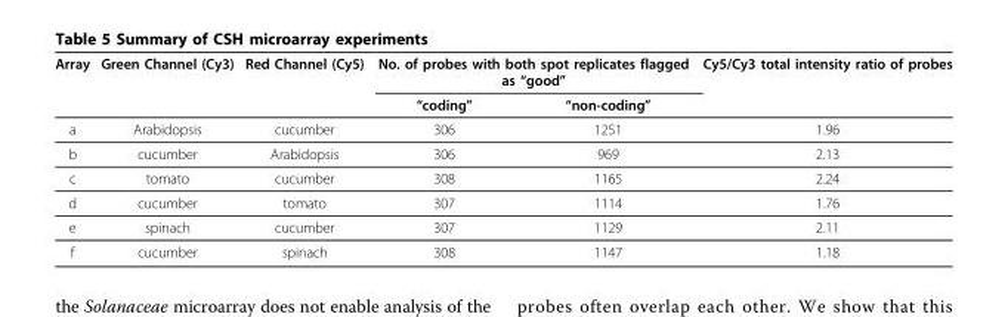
<table><thead><tr><td rowspan="2">Array</td><td rowspan="2">Green Channel (Cy3)</td><td rowspan="2">Red Channel (Cy5)</td><td colspan="2">No. of probes with both spot replicates flagged as “good”</td><td rowspan="2">Cy5/Cy3 total intensity ratio of probes</td></tr><tr><td>“coding”</td><td>“non-coding”</td></tr></thead><tbody><tr><td>a</td><td>Arabidopsis</td><td>cucumber</td><td>306</td><td>1251</td><td>1.96</td></tr><tr><td>b</td><td>cucumber</td><td>Arabidopsis</td><td>306</td><td>969</td><td>2.13</td></tr><tr><td>c</td><td>tomato</td><td>cucumber</td><td>308</td><td>1165</td><td>2.24</td></tr><tr><td>d</td><td>cucumber</td><td>tomato</td><td>307</td><td>1114</td><td>1.76</td></tr><tr><td>e</td><td>spinach</td><td>cucumber</td><td>307</td><td>1129</td><td>2.11</td></tr><tr><td>f</td><td>cucumber</td><td>spinach</td><td>308</td><td>1147</td><td>1.18</td></tr></tbody></table>